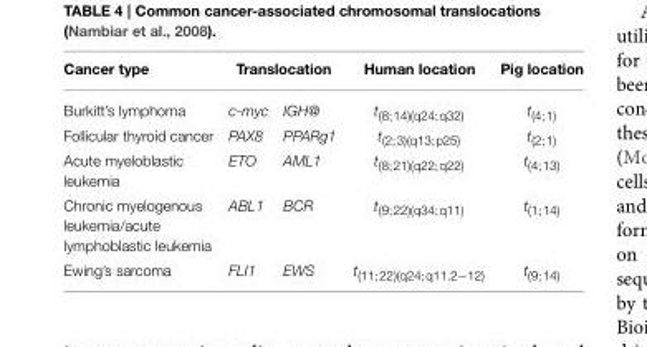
<table><thead><tr><td rowspan="2">Cancer type Burkitt’s lymphoma</td><td colspan="2">Translocation</td><td rowspan="2">Human location t<sub>(8;14)(q24;q32)</sub></td><td rowspan="2">Pig location t<sub>(4;1)</sub></td></tr><tr><td>c-myc</td><td>IGH@</td></tr></thead><tbody><tr><td>Follicular thyroid cancer</td><td>PAX8</td><td>PPARg1</td><td>t<sub>(2;3)(q13;p25)</sub></td><td>t<sub>(2;1)</sub></td></tr><tr><td>Acute myeloblastic leukemia</td><td>ETO</td><td>AML1</td><td>t<sub>(8;21)(q22;q22)</sub></td><td>t<sub>(4;13)</sub></td></tr><tr><td>Chronic myelogenous leukemia/acute lymphoblastic leukemia</td><td>ABL1</td><td>BCR</td><td>t<sub>(9;22)(q34;q11)</sub></td><td>t<sub>(1;14)</sub></td></tr><tr><td>Ewing’s sarcoma</td><td>FLI1</td><td>EWS</td><td>t<sub>(11;22)(q24;q11.2−12)</sub></td><td>t<sub>(9;14)</sub></td></tr></tbody></table>